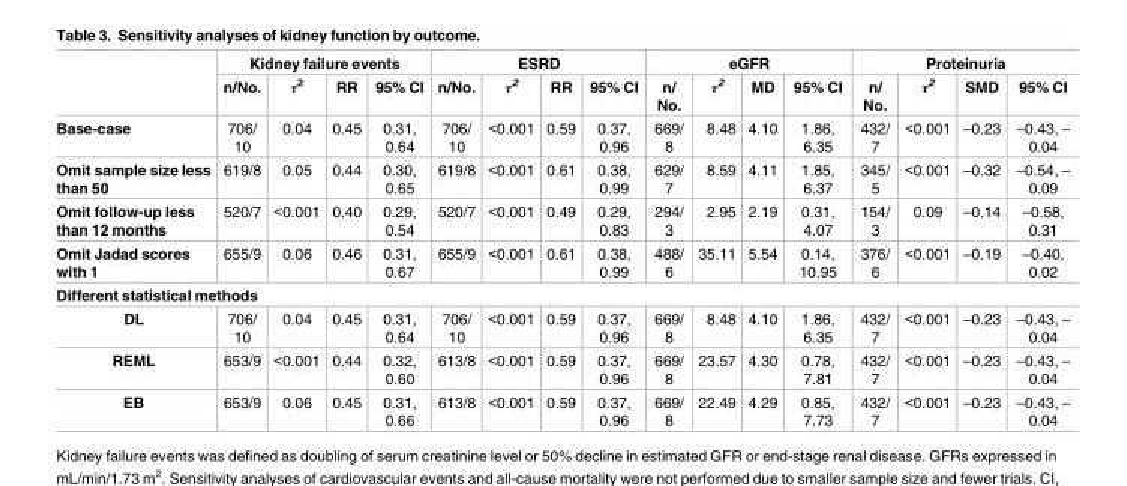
<table><thead><tr><td rowspan="2"></td><td colspan="4">Kidney failure events</td><td colspan="4">ESRD</td><td colspan="4">eGFR</td><td colspan="4">Proteinuria</td></tr><tr><td>n/No.</td><td>τ<sup>2</sup></td><td>RR</td><td>95% CI</td><td>n/No.</td><td>τ<sup>2</sup></td><td>RR</td><td>95% CI</td><td>n/ No.</td><td>τ<sup>2</sup></td><td>MD</td><td>95% CI</td><td>n/ No.</td><td>τ<sup>2</sup></td><td>SMD</td><td>95% CI</td></tr></thead><tbody><tr><td>Base-case</td><td>706/ 10</td><td>0.04</td><td>0.45</td><td>0.31, 0.64</td><td>706/ 10</td><td>&lt;0.001</td><td>0.59</td><td>0.37, 0.96</td><td>669/ 8</td><td>8.48</td><td>4.10</td><td>1.86, 6.35</td><td>432/ 7</td><td>&lt;0.001</td><td>–0.23</td><td>–0.43, – 0.04</td></tr><tr><td>Omit sample size less than 50</td><td>619/8</td><td>0.05</td><td>0.44</td><td>0.30, 0.65</td><td>619/8</td><td>&lt;0.001</td><td>0.61</td><td>0.38, 0.99</td><td>629/ 7</td><td>8.59</td><td>4.11</td><td>1.85, 6.37</td><td>345/ 5</td><td>&lt;0.001</td><td>–0.32</td><td>–0.54, – 0.09</td></tr><tr><td>Omit follow-up less than 12 months</td><td>520/7</td><td>&lt;0.001</td><td>0.40</td><td>0.29, 0.54</td><td>520/7</td><td>&lt;0.001</td><td>0.49</td><td>0.29, 0.83</td><td>294/ 3</td><td>2.95</td><td>2.19</td><td>0.31, 4.07</td><td>154/ 3</td><td>0.09</td><td>–0.14</td><td>–0.58, 0.31</td></tr><tr><td>Omit Jadad scores with 1</td><td>655/9</td><td>0.06</td><td>0.46</td><td>0.31, 0.67</td><td>655/9</td><td>&lt;0.001</td><td>0.61</td><td>0.38, 0.99</td><td>488/ 6</td><td>35.11</td><td>5.54</td><td>0.14, 10.95</td><td>376/ 6</td><td>&lt;0.001</td><td>–0.19</td><td>–0.40, 0.02</td></tr><tr><td colspan="17">Different statistical methods</td></tr><tr><td>DL</td><td>706/ 10</td><td>0.04</td><td>0.45</td><td>0.31, 0.64</td><td>706/ 10</td><td>&lt;0.001</td><td>0.59</td><td>0.37, 0.96</td><td>669/ 8</td><td>8.48</td><td>4.10</td><td>1.86, 6.35</td><td>432/ 7</td><td>&lt;0.001</td><td>–0.23</td><td>–0.43, – 0.04</td></tr><tr><td>REML</td><td>653/9</td><td>&lt;0.001</td><td>0.44</td><td>0.32, 0.60</td><td>613/8</td><td>&lt;0.001</td><td>0.59</td><td>0.37, 0.96</td><td>669/ 8</td><td>23.57</td><td>4.30</td><td>0.78, 7.81</td><td>432/ 7</td><td>&lt;0.001</td><td>–0.23</td><td>–0.43, – 0.04</td></tr><tr><td>EB</td><td>653/9</td><td>0.06</td><td>0.45</td><td>0.31, 0.66</td><td>613/8</td><td>&lt;0.001</td><td>0.59</td><td>0.37, 0.96</td><td>669/ 8</td><td>22.49</td><td>4.29</td><td>0.85, 7.73</td><td>432/ 7</td><td>&lt;0.001</td><td>–0.23</td><td>–0.43, – 0.04</td></tr></tbody></table>